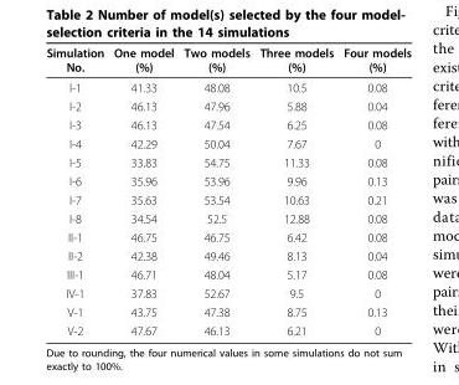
<table><thead><tr><td>Simulation No.</td><td>One model (%)</td><td>Two models (%)</td><td>Three models (%)</td><td>Four models (%)</td></tr></thead><tbody><tr><td>I-1</td><td>41.33</td><td>48.08</td><td>10.5</td><td>0.08</td></tr><tr><td>I-2</td><td>46.13</td><td>47.96</td><td>5.88</td><td>0.04</td></tr><tr><td>I-3</td><td>46.13</td><td>47.54</td><td>6.25</td><td>0.08</td></tr><tr><td>I-4</td><td>42.29</td><td>50.04</td><td>7.67</td><td>0</td></tr><tr><td>I-5</td><td>33.83</td><td>54.75</td><td>11.33</td><td>0.08</td></tr><tr><td>I-6</td><td>35.96</td><td>53.96</td><td>9.96</td><td>0.13</td></tr><tr><td>I-7</td><td>35.63</td><td>53.54</td><td>10.63</td><td>0.21</td></tr><tr><td>I-8</td><td>34.54</td><td>52.5</td><td>12.88</td><td>0.08</td></tr><tr><td>II-1</td><td>46.75</td><td>46.75</td><td>6.42</td><td>0.08</td></tr><tr><td>II-2</td><td>42.38</td><td>49.46</td><td>8.13</td><td>0.04</td></tr><tr><td>III-1</td><td>46.71</td><td>48.04</td><td>5.17</td><td>0.08</td></tr><tr><td>IV-1</td><td>37.83</td><td>52.67</td><td>9.5</td><td>0</td></tr><tr><td>V-1</td><td>43.75</td><td>47.38</td><td>8.75</td><td>0.13</td></tr><tr><td>V-2</td><td>47.67</td><td>46.13</td><td>6.21</td><td>0</td></tr></tbody></table>